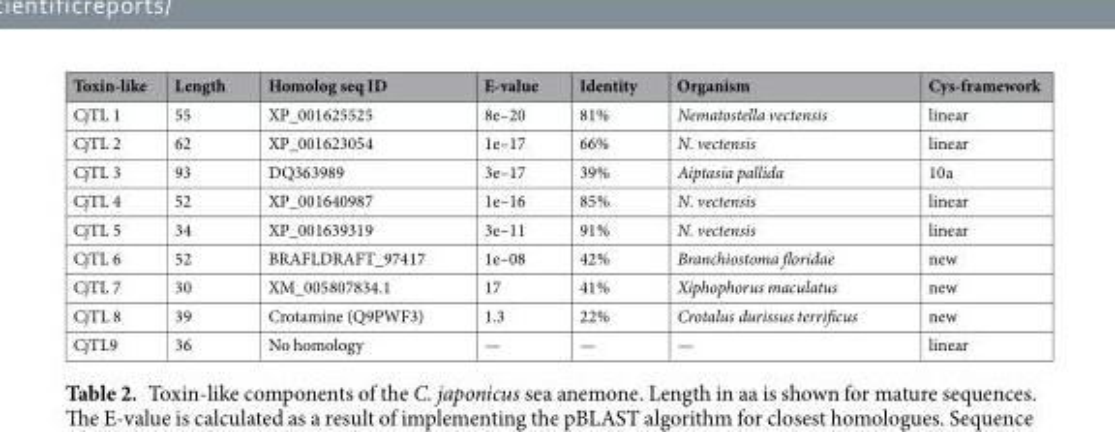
<table><thead><tr><td>Toxin-like</td><td>Length</td><td>Homolog seq ID</td><td>E-value</td><td>Identity</td><td>Organism</td><td>Cys-framework</td></tr></thead><tbody><tr><td>CjTL 1</td><td>55</td><td>XP_001625525</td><td>8e–20</td><td>81%</td><td>Nematostella vectensis</td><td>linear</td></tr><tr><td>CjTL 2</td><td>62</td><td>XP_001623054</td><td>1e–17</td><td>66%</td><td>N. vectensis</td><td>linear</td></tr><tr><td>CjTL 3</td><td>93</td><td>DQ363989</td><td>3e–17</td><td>39%</td><td>Aiptasia pallida</td><td>10a</td></tr><tr><td>CjTL 4</td><td>52</td><td>XP_001640987</td><td>1e–16</td><td>85%</td><td>N. vectensis</td><td>linear</td></tr><tr><td>CjTL 5</td><td>34</td><td>XP_001639319</td><td>3e–11</td><td>91%</td><td>N. vectensis</td><td>linear</td></tr><tr><td>CjTL 6</td><td>52</td><td>BRAFLDRAFT_97417</td><td>1e–08</td><td>42%</td><td>Branchiostoma floridae</td><td>new</td></tr><tr><td>CjTL 7</td><td>30</td><td>XM_005807834.1</td><td>17</td><td>41%</td><td>Xiphophorus maculatus</td><td>new</td></tr><tr><td>CjTL 8</td><td>39</td><td>Crotamine (Q9PWF3)</td><td>1.3</td><td>22%</td><td>Crotalus durissus terrificus</td><td>new</td></tr><tr><td>CjTL9</td><td>36</td><td>No homology</td><td>—</td><td>—</td><td>—</td><td>linear</td></tr></tbody></table>